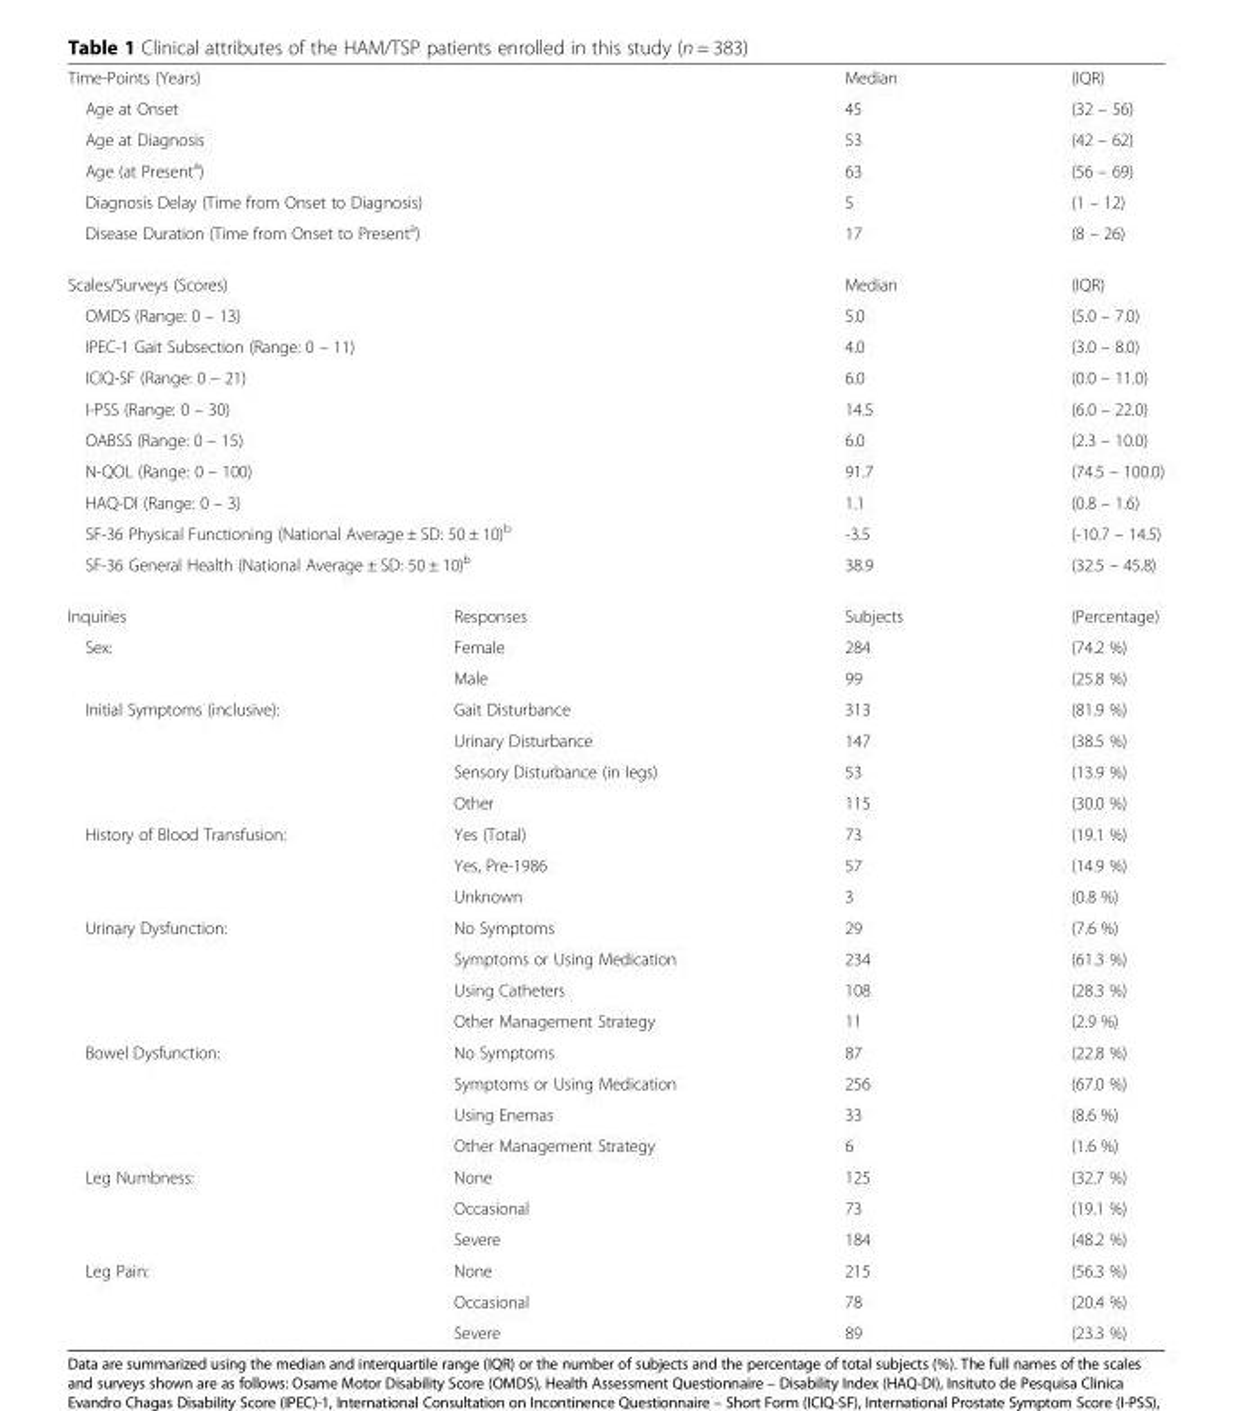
<table><tbody><tr><td colspan="2">Time-Points (Years)</td><td>Median</td><td>(IQR)</td></tr><tr><td colspan="2">Age at Onset</td><td>45</td><td>(32 – 56)</td></tr><tr><td colspan="2">Age at Diagnosis</td><td>53</td><td>(42 – 62)</td></tr><tr><td colspan="2">Age (at Present<sup>a</sup>)</td><td>63</td><td>(56 – 69)</td></tr><tr><td colspan="2">Diagnosis Delay (Time from Onset to Diagnosis)</td><td>5</td><td>(1 – 12)</td></tr><tr><td colspan="2">Disease Duration (Time from Onset to Present<sup>a</sup>)</td><td>17</td><td>(8 – 26)</td></tr><tr><td colspan="2">Scales/Surveys (Scores)</td><td>Median</td><td>(IQR)</td></tr><tr><td colspan="2">OMDS (Range: 0 – 13)</td><td>5.0</td><td>(5.0 – 7.0)</td></tr><tr><td colspan="2">IPEC-1 Gait Subsection (Range: 0 – 11)</td><td>4.0</td><td>(3.0 – 8.0)</td></tr><tr><td colspan="2">ICIQ-SF (Range: 0 – 21)</td><td>6.0</td><td>(0.0 – 11.0)</td></tr><tr><td colspan="2">I-PSS (Range: 0 – 30)</td><td>14.5</td><td>(6.0 – 22.0)</td></tr><tr><td colspan="2">OABSS (Range: 0 – 15)</td><td>6.0</td><td>(2.3 – 10.0)</td></tr><tr><td colspan="2">N-QOL (Range: 0 – 100)</td><td>91.7</td><td>(74.5 – 100.0)</td></tr><tr><td colspan="2">HAQ-DI (Range: 0 – 3)</td><td>1.1</td><td>(0.8 – 1.6)</td></tr><tr><td colspan="2">SF-36 Physical Functioning (National Average ± SD: 50 ± 10)<sup>b</sup></td><td>-3.5</td><td>(-10.7 – 14.5)</td></tr><tr><td colspan="2">SF-36 General Health (National Average ± SD: 50 ± 10)<sup>b</sup></td><td>38.9</td><td>(32.5 – 45.8)</td></tr><tr><td>Inquiries</td><td>Responses</td><td>Subjects</td><td>(Percentage)</td></tr><tr><td rowspan="2">Sex:</td><td>Female</td><td>284</td><td>(74.2 %)</td></tr><tr><td>Male</td><td>99</td><td>(25.8 %)</td></tr><tr><td rowspan="4">Initial Symptoms (inclusive):</td><td>Gait Disturbance</td><td>313</td><td>(81.9 %)</td></tr><tr><td>Urinary Disturbance</td><td>147</td><td>(38.5 %)</td></tr><tr><td>Sensory Disturbance (in legs)</td><td>53</td><td>(13.9 %)</td></tr><tr><td>Other</td><td>115</td><td>(30.0 %)</td></tr><tr><td rowspan="3">History of Blood Transfusion:</td><td>Yes (Total)</td><td>73</td><td>(19.1 %)</td></tr><tr><td>Yes, Pre-1986</td><td>57</td><td>(14.9 %)</td></tr><tr><td>Unknown</td><td>3</td><td>(0.8 %)</td></tr><tr><td rowspan="4">Urinary Dysfunction:</td><td>No Symptoms</td><td>29</td><td>(7.6 %)</td></tr><tr><td>Symptoms or Using Medication</td><td>234</td><td>(61.3 %)</td></tr><tr><td>Using Catheters</td><td>108</td><td>(28.3 %)</td></tr><tr><td>Other Management Strategy</td><td>11</td><td>(2.9 %)</td></tr><tr><td rowspan="4">Bowel Dysfunction:</td><td>No Symptoms</td><td>87</td><td>(22.8 %)</td></tr><tr><td>Symptoms or Using Medication</td><td>256</td><td>(67.0 %)</td></tr><tr><td>Using Enemas</td><td>33</td><td>(8.6 %)</td></tr><tr><td>Other Management Strategy</td><td>6</td><td>(1.6 %)</td></tr><tr><td rowspan="3">Leg Numbness:</td><td>None</td><td>125</td><td>(32.7 %)</td></tr><tr><td>Occasional</td><td>73</td><td>(19.1 %)</td></tr><tr><td>Severe</td><td>184</td><td>(48.2 %)</td></tr><tr><td rowspan="3">Leg Pain:</td><td>None</td><td>215</td><td>(56.3 %)</td></tr><tr><td>Occasional</td><td>78</td><td>(20.4 %)</td></tr><tr><td>Severe</td><td>89</td><td>(23.3 %)</td></tr></tbody></table>